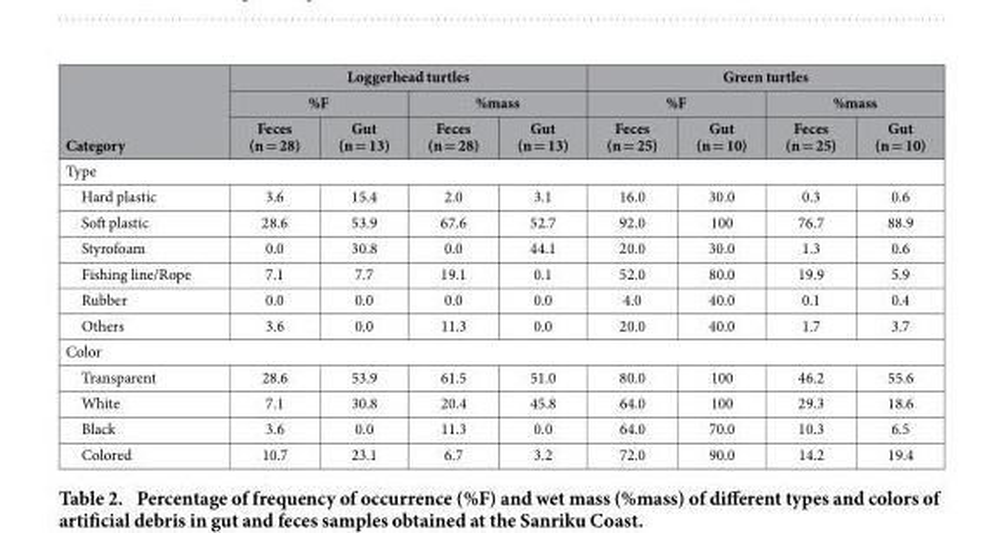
<table><thead><tr><td rowspan="3">Category</td><td colspan="4">Loggerhead turtles</td><td colspan="4">Green turtles</td></tr><tr><td colspan="2">%F</td><td colspan="2">%mass</td><td colspan="2">%F</td><td colspan="2">%mass</td></tr><tr><td>Feces (n = 28)</td><td>Gut (n = 13)</td><td>Feces (n = 28)</td><td>Gut (n = 13)</td><td>Feces (n = 25)</td><td>Gut (n = 10)</td><td>Feces (n = 25)</td><td>Gut (n = 10)</td></tr></thead><tbody><tr><td colspan="9">Type</td></tr><tr><td>Hard plastic</td><td>3.6</td><td>15.4</td><td>2.0</td><td>3.1</td><td>16.0</td><td>30.0</td><td>0.3</td><td>0.6</td></tr><tr><td>Soft plastic</td><td>28.6</td><td>53.9</td><td>67.6</td><td>52.7</td><td>92.0</td><td>100</td><td>76.7</td><td>88.9</td></tr><tr><td>Styrofoam</td><td>0.0</td><td>30.8</td><td>0.0</td><td>44.1</td><td>20.0</td><td>30.0</td><td>1.3</td><td>0.6</td></tr><tr><td>Fishing line/Rope</td><td>7.1</td><td>7.7</td><td>19.1</td><td>0.1</td><td>52.0</td><td>80.0</td><td>19.9</td><td>5.9</td></tr><tr><td>Rubber</td><td>0.0</td><td>0.0</td><td>0.0</td><td>0.0</td><td>4.0</td><td>40.0</td><td>0.1</td><td>0.4</td></tr><tr><td>Others</td><td>3.6</td><td>0.0</td><td>11.3</td><td>0.0</td><td>20.0</td><td>40.0</td><td>1.7</td><td>3.7</td></tr><tr><td colspan="9">Color</td></tr><tr><td>Transparent</td><td>28.6</td><td>53.9</td><td>61.5</td><td>51.0</td><td>80.0</td><td>100</td><td>46.2</td><td>55.6</td></tr><tr><td>White</td><td>7.1</td><td>30.8</td><td>20.4</td><td>45.8</td><td>64.0</td><td>100</td><td>29.3</td><td>18.6</td></tr><tr><td>Black</td><td>3.6</td><td>0.0</td><td>11.3</td><td>0.0</td><td>64.0</td><td>70.0</td><td>10.3</td><td>6.5</td></tr><tr><td>Colored</td><td>10.7</td><td>23.1</td><td>6.7</td><td>3.2</td><td>72.0</td><td>90.0</td><td>14.2</td><td>19.4</td></tr></tbody></table>